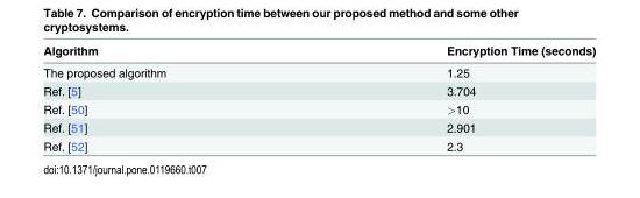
<table><thead><tr><td>Algorithm</td><td>Encryption Time (seconds)</td></tr></thead><tbody><tr><td>The proposed algorithm</td><td>1.25</td></tr><tr><td>Ref. [5]</td><td>3.704</td></tr><tr><td>Ref. [50]</td><td>&gt;10</td></tr><tr><td>Ref. [51]</td><td>2.901</td></tr><tr><td>Ref. [52]</td><td>2.3</td></tr></tbody></table>